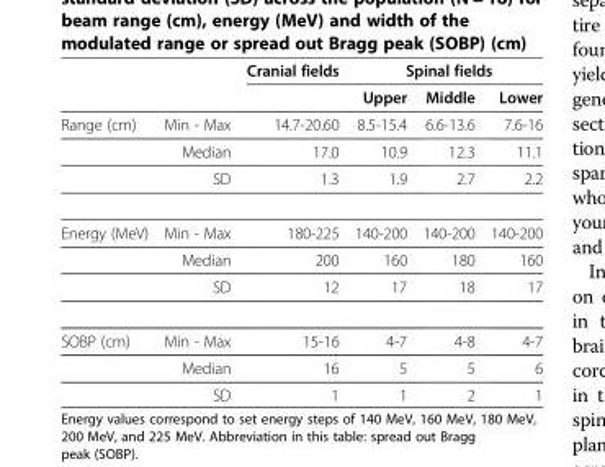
<table><thead><tr><td rowspan="2"></td><td rowspan="2"></td><td rowspan="2">Cranial fields</td><td colspan="3">Spinal fields</td></tr><tr><td>Upper</td><td>Middle</td><td>Lower</td></tr></thead><tbody><tr><td rowspan="3">Range (cm)</td><td>Min - Max</td><td>14.7-20.60</td><td>8.5-15.4</td><td>6.6-13.6</td><td>7.6-16</td></tr><tr><td>Median</td><td>17.0</td><td>10.9</td><td>12.3</td><td>11.1</td></tr><tr><td>SD</td><td>1.3</td><td>1.9</td><td>2.7</td><td>2.2</td></tr><tr><td rowspan="3">Energy (MeV)</td><td>Min - Max</td><td>180-225</td><td>140-200</td><td>140-200</td><td>140-200</td></tr><tr><td>Median</td><td>200</td><td>160</td><td>180</td><td>160</td></tr><tr><td>SD</td><td>12</td><td>17</td><td>18</td><td>17</td></tr><tr><td rowspan="3">SOBP (cm)</td><td>Min - Max</td><td>15-16</td><td>4-7</td><td>4-8</td><td>4-7</td></tr><tr><td>Median</td><td>16</td><td>5</td><td>5</td><td>6</td></tr><tr><td>SD</td><td>1</td><td>1</td><td>2</td><td>1</td></tr></tbody></table>